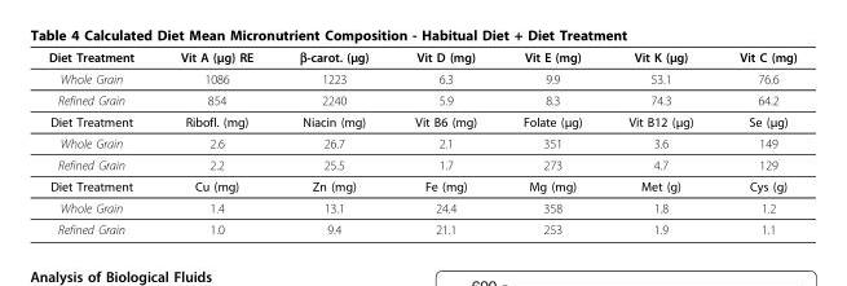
<table><thead><tr><td>Diet Treatment</td><td>Vit A (μg) RE</td><td>β-carot. (μg)</td><td>Vit D (mg)</td><td>Vit E (mg)</td><td>Vit K (μg)</td><td>Vit C (mg)</td></tr></thead><tbody><tr><td>Whole Grain</td><td>1086</td><td>1223</td><td>6.3</td><td>9.9</td><td>53.1</td><td>76.6</td></tr><tr><td>Refined Grain</td><td>854</td><td>2240</td><td>5.9</td><td>8.3</td><td>74.3</td><td>64.2</td></tr><tr><td>Diet Treatment</td><td>Ribofl. (mg)</td><td>Niacin (mg)</td><td>Vit B6 (mg)</td><td>Folate (μg)</td><td>Vit B12 (μg)</td><td>Se (μg)</td></tr><tr><td>Whole Grain</td><td>2.6</td><td>26.7</td><td>2.1</td><td>351</td><td>3.6</td><td>149</td></tr><tr><td>Refined Grain</td><td>2.2</td><td>25.5</td><td>1.7</td><td>273</td><td>4.7</td><td>129</td></tr><tr><td>Diet Treatment</td><td>Cu (mg)</td><td>Zn (mg)</td><td>Fe (mg)</td><td>Mg (mg)</td><td>Met (g)</td><td>Cys (g)</td></tr><tr><td>Whole Grain</td><td>1.4</td><td>13.1</td><td>24.4</td><td>358</td><td>1.8</td><td>1.2</td></tr><tr><td>Refined Grain</td><td>1.0</td><td>9.4</td><td>21.1</td><td>253</td><td>1.9</td><td>1.1</td></tr></tbody></table>